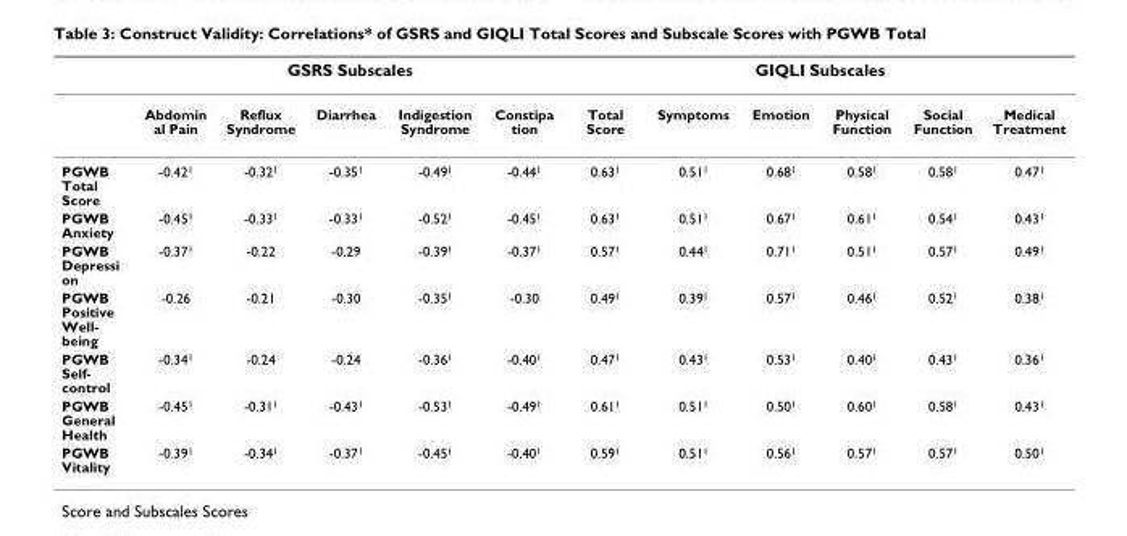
<table><thead><tr><td rowspan="2"></td><td colspan="5">GSRS Subscales</td><td colspan="6">GIQLI Subscales</td></tr><tr><td>Abdomin al Pain</td><td>Reflux Syndrome</td><td>Diarrhea</td><td>Indigestion Syndrome</td><td>Constipa tion</td><td>Total Score</td><td>Symptoms</td><td>Emotion</td><td>Physical Function</td><td>Social Function</td><td>Medical Treatment</td></tr></thead><tbody><tr><td>PGWB Total Score</td><td>-0.42<sup>1</sup></td><td>-0.32<sup>1</sup></td><td>-0.35<sup>1</sup></td><td>-0.49<sup>1</sup></td><td>-0.44<sup>1</sup></td><td>0.63<sup>1</sup></td><td>0.51<sup>1</sup></td><td>0.68<sup>1</sup></td><td>0.58<sup>1</sup></td><td>0.58<sup>1</sup></td><td>0.47<sup>1</sup></td></tr><tr><td>PGWB Anxiety</td><td>-0.45<sup>1</sup></td><td>-0.33<sup>1</sup></td><td>-0.33<sup>1</sup></td><td>-0.52<sup>1</sup></td><td>-0.45<sup>1</sup></td><td>0.63<sup>1</sup></td><td>0.51<sup>1</sup></td><td>0.67<sup>1</sup></td><td>0.61<sup>1</sup></td><td>0.54<sup>1</sup></td><td>0.43<sup>1</sup></td></tr><tr><td>PGWB Depressi on</td><td>-0.37<sup>1</sup></td><td>-0.22</td><td>-0.29</td><td>-0.39<sup>1</sup></td><td>-0.37<sup>1</sup></td><td>0.57<sup>1</sup></td><td>0.44<sup>1</sup></td><td>0.71<sup>1</sup></td><td>0.51<sup>1</sup></td><td>0.57<sup>1</sup></td><td>0.49<sup>1</sup></td></tr><tr><td>PGWB Positive Well- being</td><td>-0.26</td><td>-0.21</td><td>-0.30</td><td>-0.35<sup>1</sup></td><td>-0.30</td><td>0.49<sup>1</sup></td><td>0.39<sup>1</sup></td><td>0.57<sup>1</sup></td><td>0.46<sup>1</sup></td><td>0.52<sup>1</sup></td><td>0.38<sup>1</sup></td></tr><tr><td>PGWB Self- control</td><td>-0.34<sup>1</sup></td><td>-0.24</td><td>-0.24</td><td>-0.36<sup>1</sup></td><td>-0.40<sup>1</sup></td><td>0.47<sup>1</sup></td><td>0.43<sup>1</sup></td><td>0.53<sup>1</sup></td><td>0.40<sup>1</sup></td><td>0.43<sup>1</sup></td><td>0.36<sup>1</sup></td></tr><tr><td>PGWB General Health</td><td>-0.45<sup>1</sup></td><td>-0.31<sup>1</sup></td><td>-0.43<sup>1</sup></td><td>-0.53<sup>1</sup></td><td>-0.49<sup>1</sup></td><td>0.61<sup>1</sup></td><td>0.51<sup>1</sup></td><td>0.50<sup>1</sup></td><td>0.60<sup>1</sup></td><td>0.58<sup>1</sup></td><td>0.43<sup>1</sup></td></tr><tr><td>PGWB Vitality</td><td>-0.39<sup>1</sup></td><td>-0.34<sup>1</sup></td><td>-0.37<sup>1</sup></td><td>-0.45<sup>1</sup></td><td>-0.40<sup>1</sup></td><td>0.59<sup>1</sup></td><td>0.51<sup>1</sup></td><td>0.56<sup>1</sup></td><td>0.57<sup>1</sup></td><td>0.57<sup>1</sup></td><td>0.50<sup>1</sup></td></tr></tbody></table>